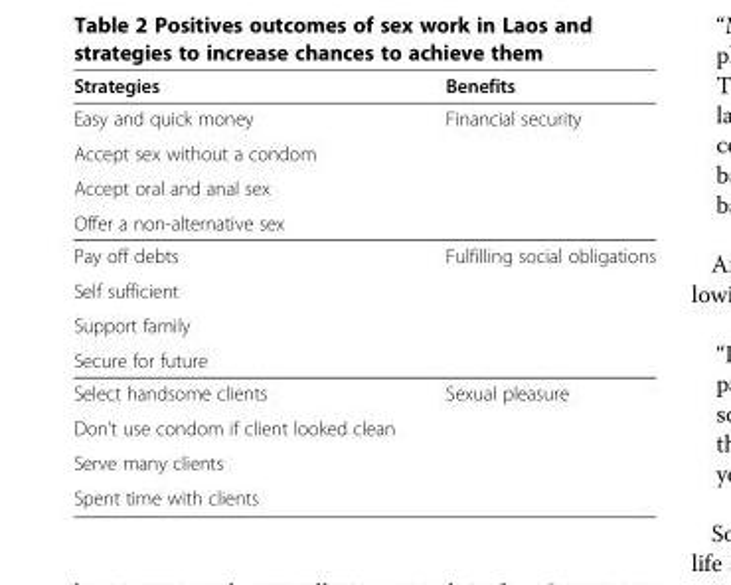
<table><thead><tr><td>Strategies</td><td>Benefits</td></tr></thead><tbody><tr><td>Easy and quick money</td><td rowspan="4">Financial security</td></tr><tr><td>Accept sex without a condom</td></tr><tr><td>Accept oral and anal sex</td></tr><tr><td>Offer a non-alternative sex</td></tr><tr><td>Pay off debts</td><td rowspan="4">Fulfilling social obligations</td></tr><tr><td>Self sufficient</td></tr><tr><td>Support family</td></tr><tr><td>Secure for future</td></tr><tr><td>Select handsome clients</td><td rowspan="4">Sexual pleasure</td></tr><tr><td>Don’t use condom if client looked clean</td></tr><tr><td>Serve many clients</td></tr><tr><td>Spent time with clients</td></tr></tbody></table>